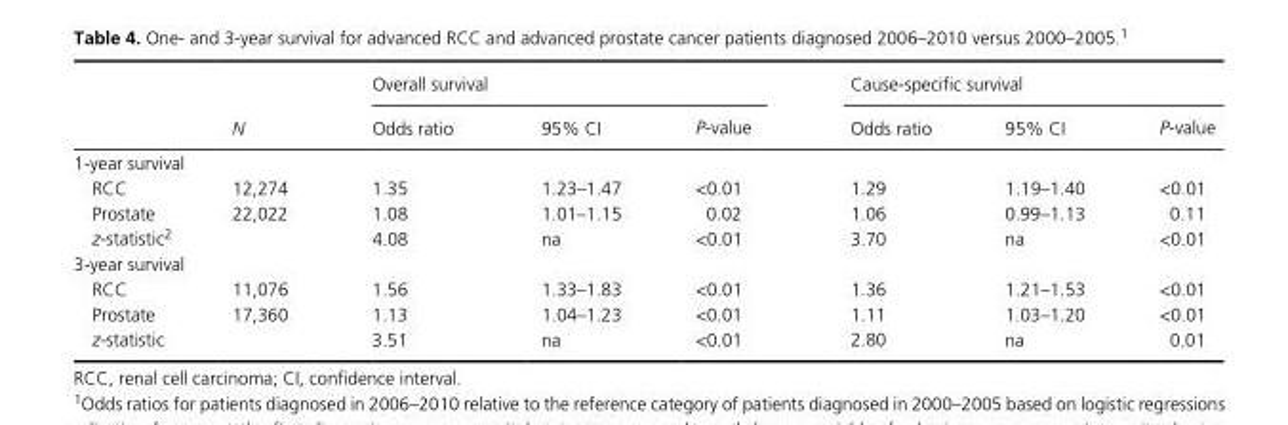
<table><thead><tr><td rowspan="2"></td><td rowspan="2">N</td><td colspan="3">Overall survival</td><td colspan="3">Cause- specific survival</td></tr><tr><td>Odds ratio</td><td>95% CI</td><td>P- value</td><td>Odds ratio</td><td>95% CI</td><td>P- value</td></tr></thead><tbody><tr><td colspan="8">1- year survival</td></tr><tr><td>RCC</td><td>12,274</td><td>1.35</td><td>1.23–1.47</td><td>&lt;0.01</td><td>1.29</td><td>1.19–1.40</td><td>&lt;0.01</td></tr><tr><td>Prostate</td><td>22,022</td><td>1.08</td><td>1.01–1.15</td><td>0.02</td><td>1.06</td><td>0.99–1.13</td><td>0.11</td></tr><tr><td>z- statistic2</td><td></td><td>4.08</td><td>na</td><td>&lt;0.01</td><td>3.70</td><td>na</td><td>&lt;0.01</td></tr><tr><td colspan="8">3- year survival</td></tr><tr><td>RCC</td><td>11,076</td><td>1.56</td><td>1.33–1.83</td><td>&lt;0.01</td><td>1.36</td><td>1.21–1.53</td><td>&lt;0.01</td></tr><tr><td>Prostate</td><td>17,360</td><td>1.13</td><td>1.04–1.23</td><td>&lt;0.01</td><td>1.11</td><td>1.03–1.20</td><td>&lt;0.01</td></tr><tr><td>z- statistic</td><td></td><td>3.51</td><td>na</td><td>&lt;0.01</td><td>2.80</td><td>na</td><td>0.01</td></tr></tbody></table>